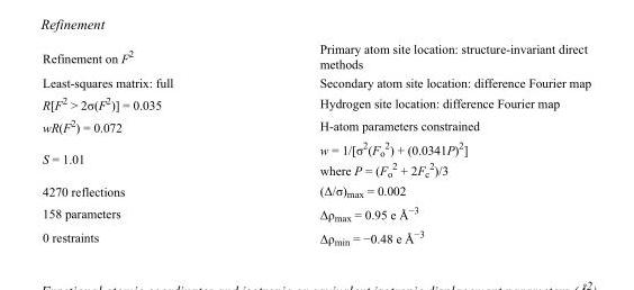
<table><tbody><tr><td>Refinement on F<sup>2</sup></td><td>Primary atom site location: structure-invariant direct methods</td></tr><tr><td>Least-squares matrix: full</td><td>Secondary atom site location: difference Fourier map</td></tr><tr><td>R[F<sup>2</sup> &gt; 2σ(F<sup>2</sup>)] = 0.035</td><td>Hydrogen site location: difference Fourier map</td></tr><tr><td>wR(F<sup>2</sup>) = 0.072</td><td>H-atom parameters constrained</td></tr><tr><td>S = 1.01</td><td>w = 1/[σ<sup>2</sup>(F<sub>o</sub> <sup>2</sup>) + (0.0341P)<sup>2</sup>] where P = (F<sub>o</sub> <sup>2</sup> + 2F<sub>c</sub> <sup>2</sup>)/3</td></tr><tr><td>4270 reflections</td><td>(Δ/σ)<sub>max</sub> = 0.002</td></tr><tr><td>158 parameters</td><td>Δρ<sub>max</sub> = 0.95 e Å<sup>−3</sup></td></tr><tr><td>0 restraints</td><td>Δρ<sub>min</sub> = −0.48 e Å<sup>−3</sup></td></tr></tbody></table>